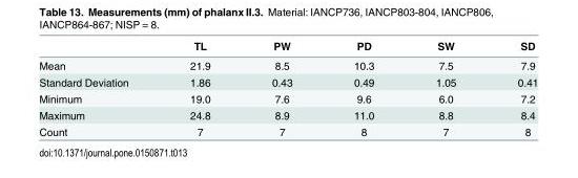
<table><thead><tr><td></td><td>TL</td><td>PW</td><td>PD</td><td>SW</td><td>SD</td></tr></thead><tbody><tr><td>Mean</td><td>21.9</td><td>8.5</td><td>10.3</td><td>7.5</td><td>7.9</td></tr><tr><td>Standard Deviation</td><td>1.86</td><td>0.43</td><td>0.49</td><td>1.05</td><td>0.41</td></tr><tr><td>Minimum</td><td>19.0</td><td>7.6</td><td>9.6</td><td>6.0</td><td>7.2</td></tr><tr><td>Maximum</td><td>24.8</td><td>8.9</td><td>11.0</td><td>8.8</td><td>8.4</td></tr><tr><td>Count</td><td>7</td><td>7</td><td>8</td><td>7</td><td>8</td></tr></tbody></table>